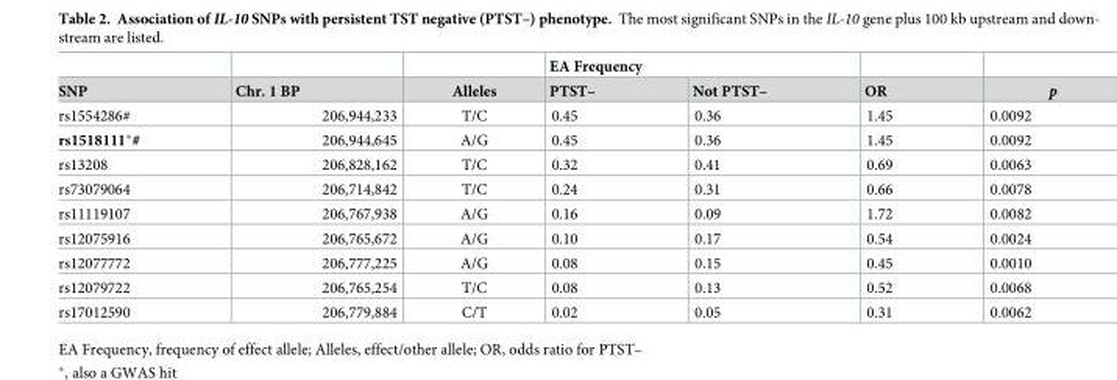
<table><thead><tr><td rowspan="2">SNP</td><td rowspan="2">Chr. 1 BP</td><td rowspan="2">Alleles</td><td colspan="2">EA Frequency</td><td rowspan="2">OR</td><td rowspan="2">p</td></tr><tr><td>PTST–</td><td>Not PTST–</td></tr></thead><tbody><tr><td>rs1554286#</td><td>206,944,233</td><td>T/C</td><td>0.45</td><td>0.36</td><td>1.45</td><td>0.0092</td></tr><tr><td>rs1518111*#</td><td>206,944,645</td><td>A/G</td><td>0.45</td><td>0.36</td><td>1.45</td><td>0.0092</td></tr><tr><td>rs13208</td><td>206,828,162</td><td>T/C</td><td>0.32</td><td>0.41</td><td>0.69</td><td>0.0063</td></tr><tr><td>rs73079064</td><td>206,714,842</td><td>T/C</td><td>0.24</td><td>0.31</td><td>0.66</td><td>0.0078</td></tr><tr><td>rs11119107</td><td>206,767,938</td><td>A/G</td><td>0.16</td><td>0.09</td><td>1.72</td><td>0.0082</td></tr><tr><td>rs12075916</td><td>206,765,672</td><td>A/G</td><td>0.10</td><td>0.17</td><td>0.54</td><td>0.0024</td></tr><tr><td>rs12077772</td><td>206,777,225</td><td>A/G</td><td>0.08</td><td>0.15</td><td>0.45</td><td>0.0010</td></tr><tr><td>rs12079722</td><td>206,765,254</td><td>T/C</td><td>0.08</td><td>0.13</td><td>0.52</td><td>0.0068</td></tr><tr><td>rs17012590</td><td>206,779,884</td><td>C/T</td><td>0.02</td><td>0.05</td><td>0.31</td><td>0.0062</td></tr></tbody></table>